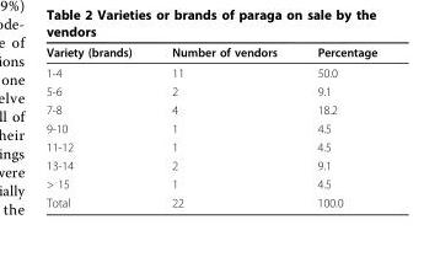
<table><thead><tr><td>Variety (brands)</td><td>Number of vendors</td><td>Percentage</td></tr></thead><tbody><tr><td>1-4</td><td>11</td><td>50.0</td></tr><tr><td>5-6</td><td>2</td><td>9.1</td></tr><tr><td>7-8</td><td>4</td><td>18.2</td></tr><tr><td>9-10</td><td>1</td><td>4.5</td></tr><tr><td>11-12</td><td>1</td><td>4.5</td></tr><tr><td>13-14</td><td>2</td><td>9.1</td></tr><tr><td>&gt; 15</td><td>1</td><td>4.5</td></tr><tr><td>Total</td><td>22</td><td>100.0</td></tr></tbody></table>